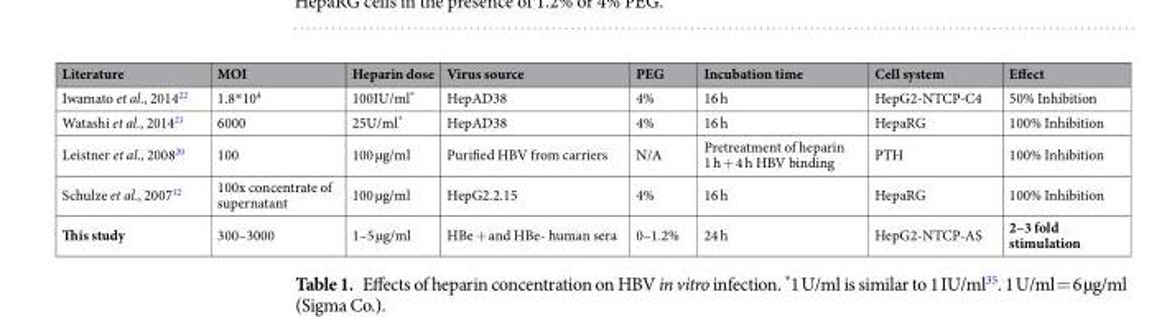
<table><thead><tr><td>Literature</td><td>MOI</td><td>Heparin dose</td><td>Virus source</td><td>PEG</td><td>Incubation time</td><td>Cell system</td><td>Effect</td></tr></thead><tbody><tr><td>Iwamato et al., 2014<sup>22</sup></td><td>1.8*10<sup>4</sup></td><td>100IU/ml*</td><td>HepAD38</td><td>4%</td><td>16 h</td><td>HepG2-NTCP-C4</td><td>50% Inhibition</td></tr><tr><td>Watashi et al., 2014<sup>21</sup></td><td>6000</td><td>25U/ml*</td><td>HepAD38</td><td>4%</td><td>16 h</td><td>HepaRG</td><td>100% Inhibition</td></tr><tr><td>Leistner et al., 2008<sup>20</sup></td><td>100</td><td>100 µg/ml</td><td>Purified HBV from carriers</td><td>N/A</td><td>Pretreatment of heparin 1 h + 4 h HBV binding</td><td>PTH</td><td>100% Inhibition</td></tr><tr><td>Schulze et al., 2007<sup>12</sup></td><td>100x concentrate of supernatant</td><td>100 µg/ml</td><td>HepG2.2.15</td><td>4%</td><td>16 h</td><td>HepaRG</td><td>100% Inhibition</td></tr><tr><td>This study</td><td>300–3000</td><td>1–5 µg/ml</td><td>HBe + and HBe- human sera</td><td>0–1.2%</td><td>24 h</td><td>HepG2-NTCP-AS</td><td>2–3 fold stimulation</td></tr></tbody></table>